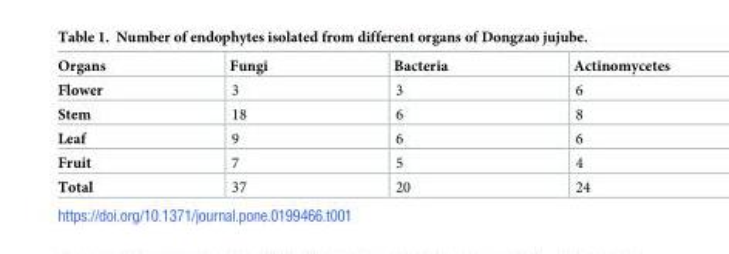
<table><thead><tr><td>Organs</td><td>Fungi</td><td>Bacteria</td><td>Actinomycetes</td></tr></thead><tbody><tr><td>Flower</td><td>3</td><td>3</td><td>6</td></tr><tr><td>Stem</td><td>18</td><td>6</td><td>8</td></tr><tr><td>Leaf</td><td>9</td><td>6</td><td>6</td></tr><tr><td>Fruit</td><td>7</td><td>5</td><td>4</td></tr><tr><td>Total</td><td>37</td><td>20</td><td>24</td></tr></tbody></table>